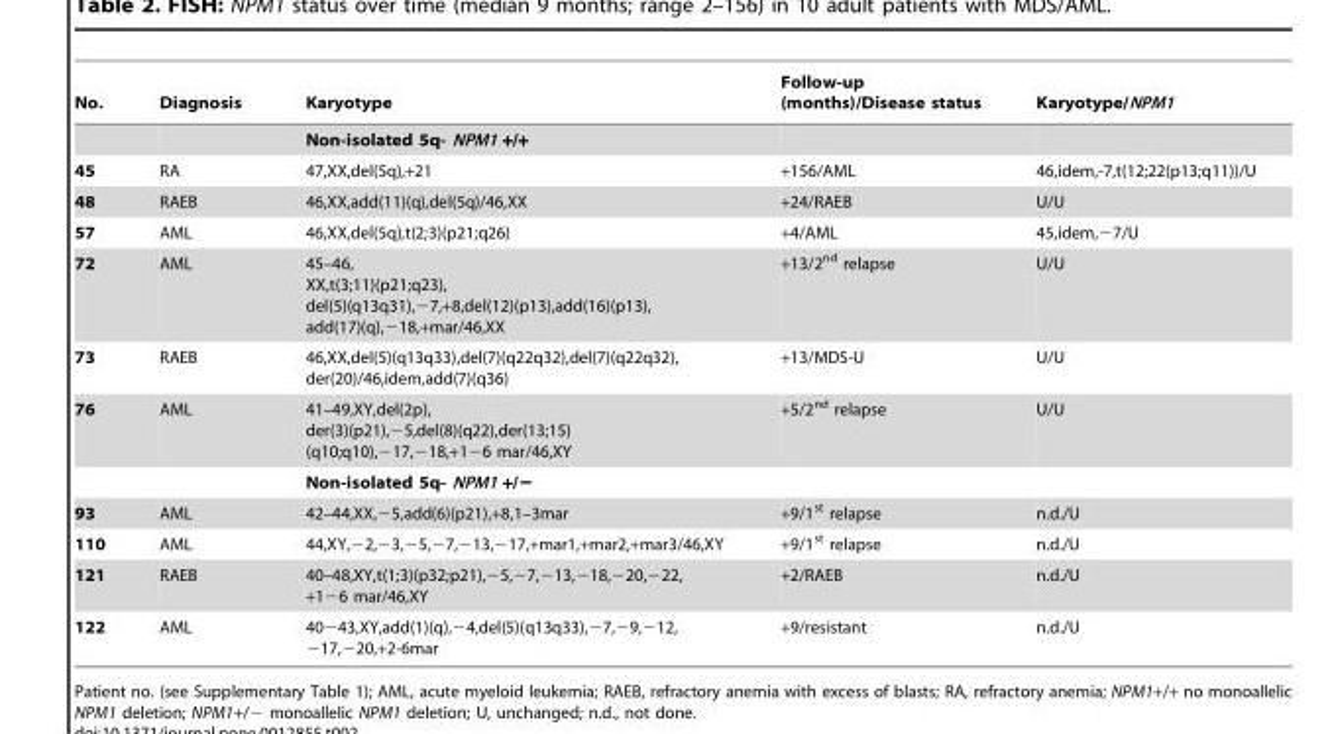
<table><thead><tr><td>No.</td><td>Diagnosis</td><td>Karyotype</td><td>Follow-up (months)/Disease status</td><td>Karyotype/NPM1</td></tr></thead><tbody><tr><td></td><td></td><td>Non-isolated 5q- NPM1 +/+</td><td></td><td></td></tr><tr><td>45</td><td>RA</td><td>47,XX,del(5q),+21</td><td>+156/AML</td><td>46,idem,-7,t(12;22(p13;q11))/U</td></tr><tr><td>48</td><td>RAEB</td><td>46,XX,add(11)(q),del(5q)/46,XX</td><td>+24/RAEB</td><td>U/U</td></tr><tr><td>57</td><td>AML</td><td>46,XX,del(5q),t(2;3)(p21;q26)</td><td>+4/AML</td><td>45,idem,−7/U</td></tr><tr><td>72</td><td>AML</td><td>45–46, XX,t(3;11)(p21;q23), del(5)(q13q31),−7,+8,del(12)(p13),add(16)(p13), add(17)(q),−18,+mar/46,XX</td><td>+13/2<sup>nd</sup> relapse</td><td>U/U</td></tr><tr><td>73</td><td>RAEB</td><td>46,XX,del(5)(q13q33),del(7)(q22q32),del(7)(q22q32), der(20)/46,idem,add(7)(q36)</td><td>+13/MDS-U</td><td>U/U</td></tr><tr><td rowspan="2">76</td><td>AML</td><td>41–49,XY,del(2p), der(3)(p21),−5,del(8)(q22),der(13;15) (q10;q10),−17,−18,+1−6 mar/46,XY</td><td>+5/2<sup>nd</sup> relapse</td><td>U/U</td></tr><tr><td></td><td>Non-isolated 5q- NPM1 +/−</td><td></td><td></td></tr><tr><td>93</td><td>AML</td><td>42–44,XX,−5,add(6)(p21),+8,1–3mar</td><td>+9/1<sup>st</sup> relapse</td><td>n.d./U</td></tr><tr><td>110</td><td>AML</td><td>44,XY,−2,−3,−5,−7,−13,−17,+mar1,+mar2,+mar3/46,XY</td><td>+9/1<sup>st</sup> relapse</td><td>n.d./U</td></tr><tr><td>121</td><td>RAEB</td><td>40–48,XY,t(1;3)(p32;p21),−5,−7,−13,−18,−20,−22, +1−6 mar/46,XY</td><td>+2/RAEB</td><td>n.d./U</td></tr><tr><td>122</td><td>AML</td><td>40−43,XY,add(1)(q),−4,del(5)(q13q33),−7,−9,−12, −17,−20,+2-6mar</td><td>+9/resistant</td><td>n.d./U</td></tr></tbody></table>